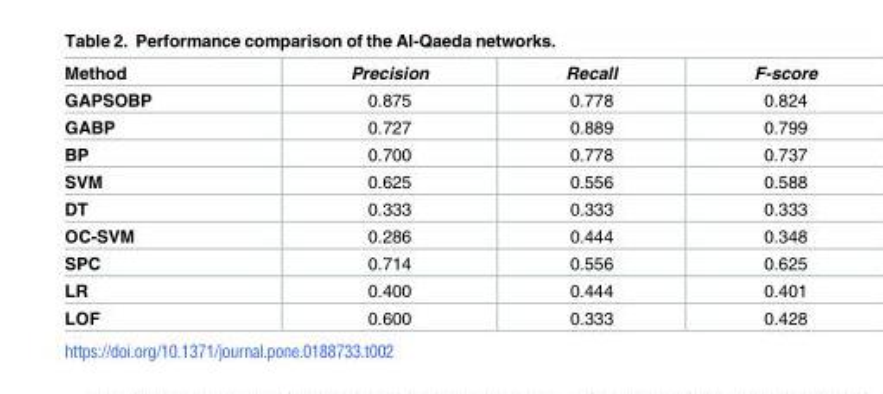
<table><thead><tr><td>Method</td><td>Precision</td><td>Recall</td><td>F-score</td></tr></thead><tbody><tr><td>GAPSOBP</td><td>0.875</td><td>0.778</td><td>0.824</td></tr><tr><td>GABP</td><td>0.727</td><td>0.889</td><td>0.799</td></tr><tr><td>BP</td><td>0.700</td><td>0.778</td><td>0.737</td></tr><tr><td>SVM</td><td>0.625</td><td>0.556</td><td>0.588</td></tr><tr><td>DT</td><td>0.333</td><td>0.333</td><td>0.333</td></tr><tr><td>OC-SVM</td><td>0.286</td><td>0.444</td><td>0.348</td></tr><tr><td>SPC</td><td>0.714</td><td>0.556</td><td>0.625</td></tr><tr><td>LR</td><td>0.400</td><td>0.444</td><td>0.401</td></tr><tr><td>LOF</td><td>0.600</td><td>0.333</td><td>0.428</td></tr></tbody></table>